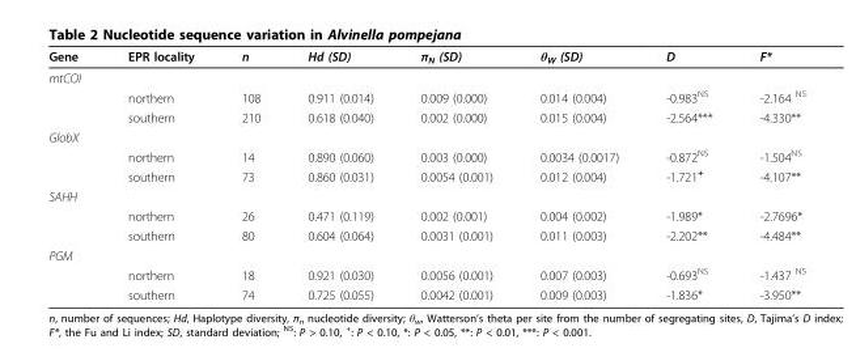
<table><thead><tr><td>Gene</td><td>EPR locality</td><td>n</td><td>Hd (SD)</td><td>π<sub>N</sub> (SD)</td><td>θ<sub>W</sub> (SD)</td><td>D</td><td>F*</td></tr></thead><tbody><tr><td colspan="8">mtCOI</td></tr><tr><td></td><td>northern</td><td>108</td><td>0.911 (0.014)</td><td>0.009 (0.000)</td><td>0.014 (0.004)</td><td>-0.983<sup>NS</sup></td><td>-2.164 <sup>NS</sup></td></tr><tr><td></td><td>southern</td><td>210</td><td>0.618 (0.040)</td><td>0.002 (0.000)</td><td>0.015 (0.004)</td><td>-2.564***</td><td>-4.330**</td></tr><tr><td colspan="8">GlobX</td></tr><tr><td></td><td>northern</td><td>14</td><td>0.890 (0.060)</td><td>0.003 (0.000)</td><td>0.0034 (0.0017)</td><td>-0.872<sup>NS</sup></td><td>-1.504<sup>NS</sup></td></tr><tr><td></td><td>southern</td><td>73</td><td>0.860 (0.031)</td><td>0.0054 (0.001)</td><td>0.012 (0.004)</td><td>-1.721<sup>+</sup></td><td>-4.107**</td></tr><tr><td colspan="8">SAHH</td></tr><tr><td></td><td>northern</td><td>26</td><td>0.471 (0.119)</td><td>0.002 (0.001)</td><td>0.004 (0.002)</td><td>-1.989*</td><td>-2.7696*</td></tr><tr><td></td><td>southern</td><td>80</td><td>0.604 (0.064)</td><td>0.0031 (0.001)</td><td>0.011 (0.003)</td><td>-2.202**</td><td>-4.484**</td></tr><tr><td colspan="8">PGM</td></tr><tr><td></td><td>northern</td><td>18</td><td>0.921 (0.030)</td><td>0.0056 (0.001)</td><td>0.007 (0.003)</td><td>-0.693<sup>NS</sup></td><td>-1.437 <sup>NS</sup></td></tr><tr><td></td><td>southern</td><td>74</td><td>0.725 (0.055)</td><td>0.0042 (0.001)</td><td>0.009 (0.003)</td><td>-1.836*</td><td>-3.950**</td></tr></tbody></table>